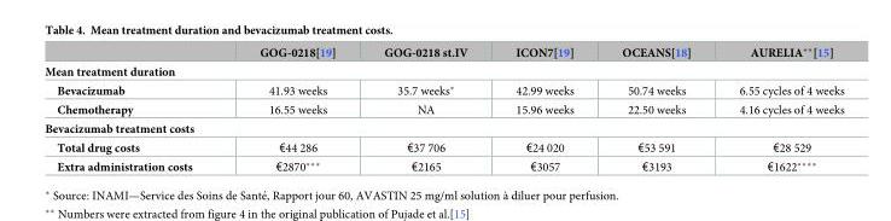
<table><thead><tr><td></td><td>GOG-0218[19]</td><td>GOG-0218 st.IV</td><td>ICON7[19]</td><td>OCEANS[18]</td><td>AURELIA**[15]</td></tr></thead><tbody><tr><td colspan="6">Mean treatment duration</td></tr><tr><td>Bevacizumab</td><td>41.93 weeks</td><td>35.7 weeks*</td><td>42.99 weeks</td><td>50.74 weeks</td><td>6.55 cycles of 4 weeks</td></tr><tr><td>Chemotherapy</td><td>16.55 weeks</td><td>NA</td><td>15.96 weeks</td><td>22.50 weeks</td><td>4.16 cycles of 4 weeks</td></tr><tr><td colspan="6">Bevacizumab treatment costs</td></tr><tr><td>Total drug costs</td><td>€44 286</td><td>€37 706</td><td>€24 020</td><td>€53 591</td><td>€28 529</td></tr><tr><td>Extra administration costs</td><td>€2870***</td><td>€2165</td><td>€3057</td><td>€3193</td><td>€1622****</td></tr></tbody></table>